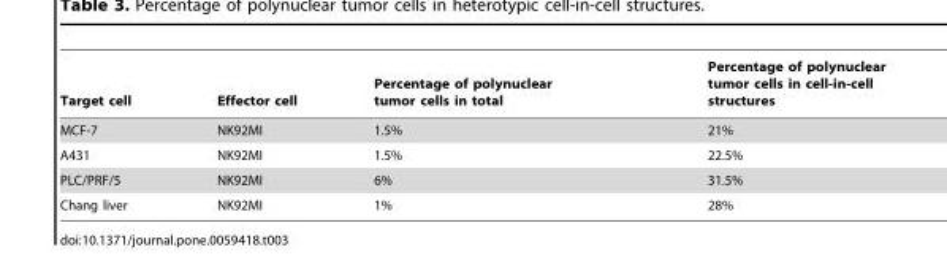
<table><thead><tr><td>Target cell</td><td>Effector cell</td><td>Percentage of polynuclear tumor cells in total</td><td>Percentage of polynuclear tumor cells in cell-in-cell structures</td></tr></thead><tbody><tr><td>MCF-7</td><td>NK92MI</td><td>1.5%</td><td>21%</td></tr><tr><td>A431</td><td>NK92MI</td><td>1.5%</td><td>22.5%</td></tr><tr><td>PLC/PRF/5</td><td>NK92MI</td><td>6%</td><td>31.5%</td></tr><tr><td>Chang liver</td><td>NK92MI</td><td>1%</td><td>28%</td></tr></tbody></table>